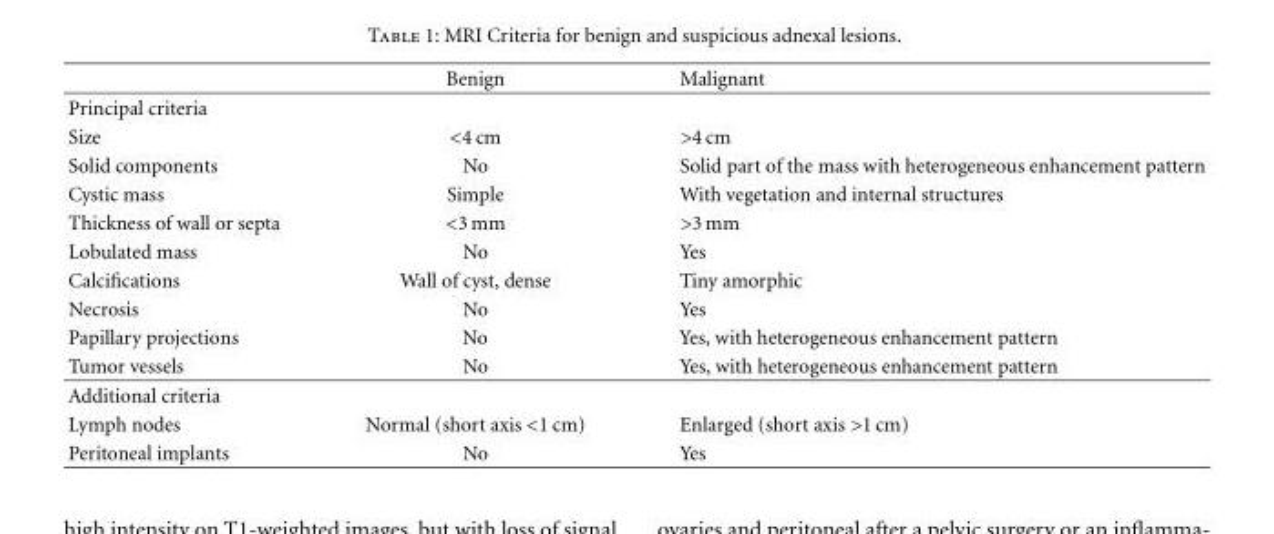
<table><thead><tr><td></td><td>Benign</td><td>Malignant</td></tr></thead><tbody><tr><td colspan="3">Principal criteria</td></tr><tr><td>Size</td><td>&lt;4 cm</td><td>&gt;4 cm</td></tr><tr><td>Solid components</td><td>No</td><td>Solid part of the mass with heterogeneous enhancement pattern</td></tr><tr><td>Cystic mass</td><td>Simple</td><td>With vegetation and internal structures</td></tr><tr><td>Thickness of wall or septa</td><td>&lt;3 mm</td><td>&gt;3 mm</td></tr><tr><td>Lobulated mass</td><td>No</td><td>Yes</td></tr><tr><td>Calcifications</td><td>Wall of cyst, dense</td><td>Tiny amorphic</td></tr><tr><td>Necrosis</td><td>No</td><td>Yes</td></tr><tr><td>Papillary projections</td><td>No</td><td>Yes, with heterogeneous enhancement pattern</td></tr><tr><td>Tumor vessels</td><td>No</td><td>Yes, with heterogeneous enhancement pattern</td></tr><tr><td colspan="3">Additional criteria</td></tr><tr><td>Lymph nodes</td><td>Normal (short axis &lt;1 cm)</td><td>Enlarged (short axis &gt;1 cm)</td></tr><tr><td>Peritoneal implants</td><td>No</td><td>Yes</td></tr></tbody></table>